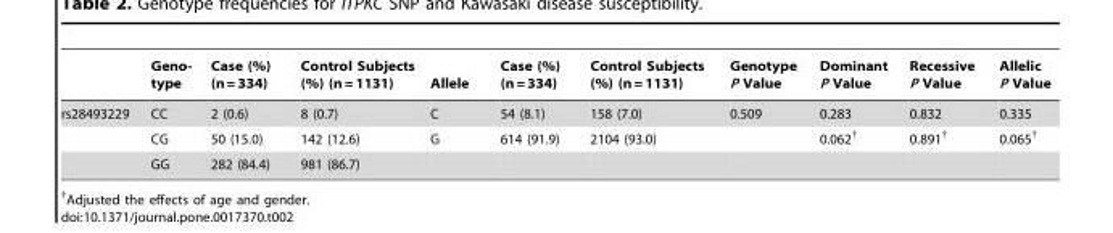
<table><thead><tr><td></td><td>Geno- type</td><td>Case (%) (n = 334)</td><td>Control Subjects (%) (n = 1131)</td><td>Allele</td><td>Case (%) (n = 334)</td><td>Control Subjects (%) (n = 1131)</td><td>Genotype P Value</td><td>Dominant P Value</td><td>Recessive P Value</td><td>Allelic P Value</td></tr></thead><tbody><tr><td rowspan="3">rs28493229</td><td>CC</td><td>2 (0.6)</td><td>8 (0.7)</td><td>C</td><td>54 (8.1)</td><td>158 (7.0)</td><td>0.509</td><td>0.283</td><td>0.832</td><td>0.335</td></tr><tr><td>CG</td><td>50 (15.0)</td><td>142 (12.6)</td><td>G</td><td>614 (91.9)</td><td>2104 (93.0)</td><td></td><td>0.062†</td><td>0.891†</td><td>0.065†</td></tr><tr><td>GG</td><td>282 (84.4)</td><td>981 (86.7)</td><td></td><td></td><td></td><td></td><td></td><td></td><td></td></tr></tbody></table>